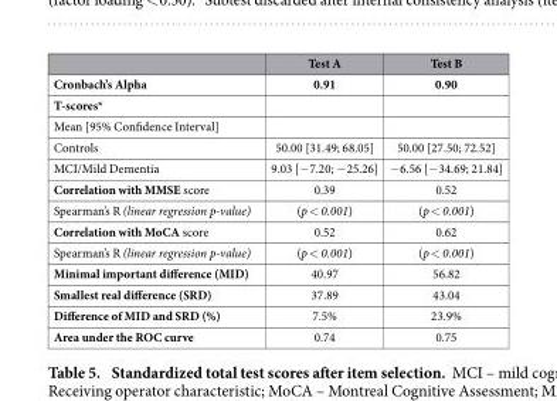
<table><thead><tr><td rowspan="2">Cronbach’s Alpha</td><td rowspan="2">Test A 0.91</td><td rowspan="2">Test B 0.90</td></tr><tr></tr></thead><tbody><tr><td colspan="3">T-scores*</td></tr><tr><td colspan="3">Mean [95% Confidence Interval]</td></tr><tr><td>Controls</td><td>50.00 [31.49; 68.05]</td><td>50.00 [27.50; 72.52]</td></tr><tr><td>MCI/Mild Dementia</td><td>9.03 [− 7.20; − 25.26]</td><td>− 6.56 [− 34.69; 21.84]</td></tr><tr><td>Correlation with MMSE score</td><td>0.39</td><td>0.52</td></tr><tr><td>Spearman’s R (linear regression p-value)</td><td>(p &lt; 0.001)</td><td>(p &lt; 0.001)</td></tr><tr><td>Correlation with MoCA score</td><td>0.52</td><td>0.62</td></tr><tr><td>Spearman’s R (linear regression p-value)</td><td>(p &lt; 0.001)</td><td>(p &lt; 0.001)</td></tr><tr><td>Minimal important difference (MID)</td><td>40.97</td><td>56.82</td></tr><tr><td>Smallest real difference (SRD)</td><td>37.89</td><td>43.04</td></tr><tr><td>Difference of MID and SRD (%)</td><td>7.5%</td><td>23.9%</td></tr><tr><td>Area under the ROC curve</td><td>0.74</td><td>0.75</td></tr></tbody></table>